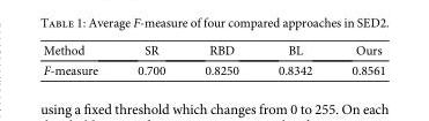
<table><thead><tr><td>Method</td><td>SR</td><td>RBD</td><td>BL</td><td>Ours</td></tr></thead><tbody><tr><td>F-measure</td><td>0.700</td><td>0.8250</td><td>0.8342</td><td>0.8561</td></tr></tbody></table>